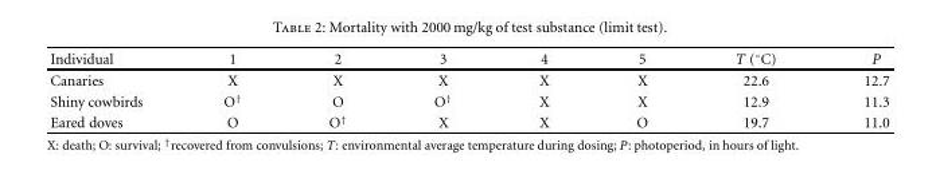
<table><thead><tr><td>Individual</td><td>1</td><td>2</td><td>3</td><td>4</td><td>5</td><td>T (◦C)</td><td>P</td></tr></thead><tbody><tr><td>Canaries</td><td>X</td><td>X</td><td>X</td><td>X</td><td>X</td><td>22.6</td><td>12.7</td></tr><tr><td>Shiny cowbirds</td><td>O<sup>†</sup></td><td>O</td><td>O<sup>†</sup></td><td>X</td><td>X</td><td>12.9</td><td>11.3</td></tr><tr><td>Eared doves</td><td>O</td><td>O<sup>†</sup></td><td>X</td><td>X</td><td>O</td><td>19.7</td><td>11.0</td></tr></tbody></table>